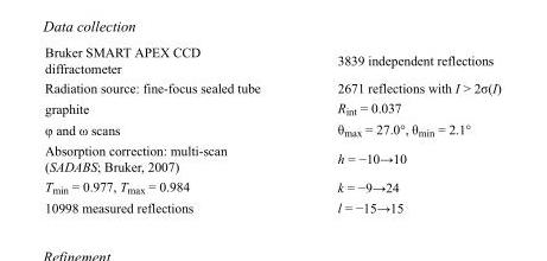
<table><tbody><tr><td>Bruker SMART APEX CCD diffractometer</td><td>3839 independent reflections</td></tr><tr><td>Radiation source: fine-focus sealed tube</td><td>2671 reflections with I &gt; 2σ(I)</td></tr><tr><td>graphite</td><td>R<sub>int</sub> = 0.037</td></tr><tr><td>φ and ω scans</td><td>θ<sub>max</sub> = 27.0°, θ<sub>min</sub> = 2.1°</td></tr><tr><td>Absorption correction: multi-scan (SADABS; Bruker, 2007)</td><td>h = −10→10</td></tr><tr><td>T<sub>min</sub> = 0.977, T<sub>max</sub> = 0.984</td><td>k = −9→24</td></tr><tr><td>10998 measured reflections</td><td>l = −15→15</td></tr></tbody></table>